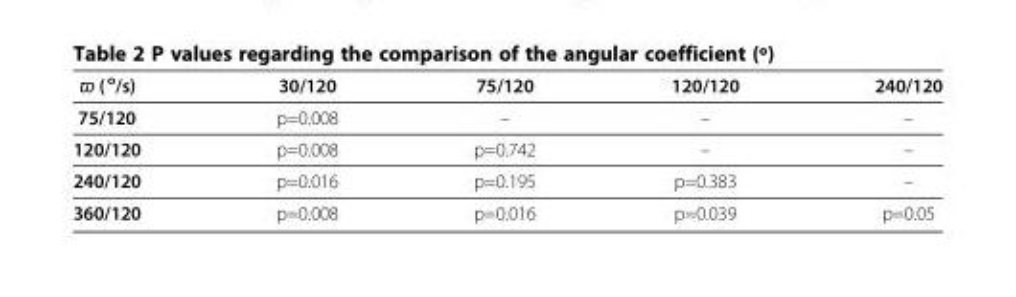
<table><thead><tr><td>ϖ ( <sup>o</sup>/s)</td><td>30/120</td><td>75/120</td><td>120/120</td><td>240/120</td></tr></thead><tbody><tr><td>75/120</td><td>p=0.008</td><td>–</td><td>–</td><td>–</td></tr><tr><td>120/120</td><td>p=0.008</td><td>p=0.742</td><td>–</td><td>–</td></tr><tr><td>240/120</td><td>p=0.016</td><td>p=0.195</td><td>p=0.383</td><td>–</td></tr><tr><td>360/120</td><td>p=0.008</td><td>p=0.016</td><td>p=0.039</td><td>p=0.05</td></tr></tbody></table>